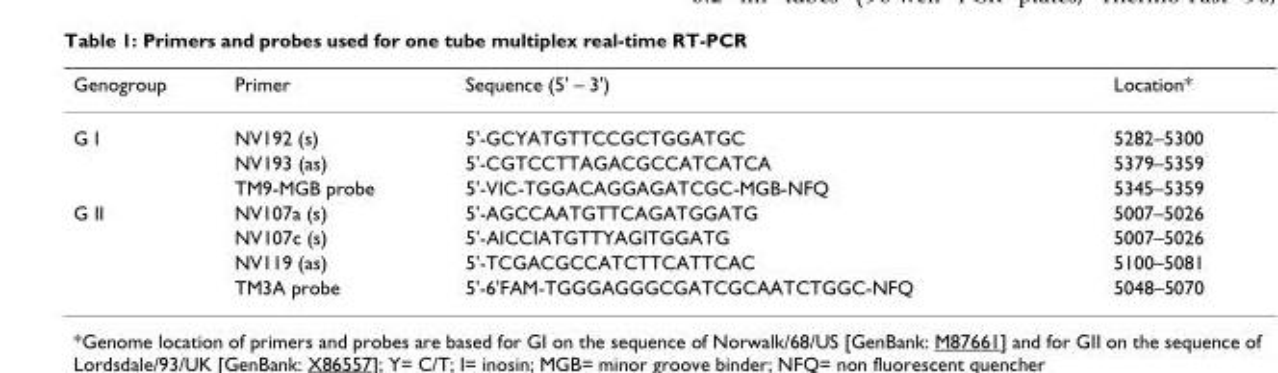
<table><thead><tr><td>Genogroup</td><td>Primer</td><td>Sequence (5&#x27; – 3&#x27;)</td><td>Location*</td></tr></thead><tbody><tr><td rowspan="3">G I</td><td>NV192 (s)</td><td>5&#x27;-GCYATGTTCCGCTGGATGC</td><td>5282–5300</td></tr><tr><td>NV193 (as)</td><td>5&#x27;-CGTCCTTAGACGCCATCATCA</td><td>5379–5359</td></tr><tr><td>TM9-MGB probe</td><td>5&#x27;-VIC-TGGACAGGAGATCGC-MGB-NFQ</td><td>5345–5359</td></tr><tr><td rowspan="4">G II</td><td>NV107a (s)</td><td>5&#x27;-AGCCAATGTTCAGATGGATG</td><td>5007–5026</td></tr><tr><td>NV107c (s)</td><td>5&#x27;-AICCIATGTTYAGITGGATG</td><td>5007–5026</td></tr><tr><td>NV119 (as)</td><td>5&#x27;-TCGACGCCATCTTCATTCAC</td><td>5100–5081</td></tr><tr><td>TM3A probe</td><td>5&#x27;-6&#x27;FAM-TGGGAGGGCGATCGCAATCTGGC-NFQ</td><td>5048–5070</td></tr></tbody></table>